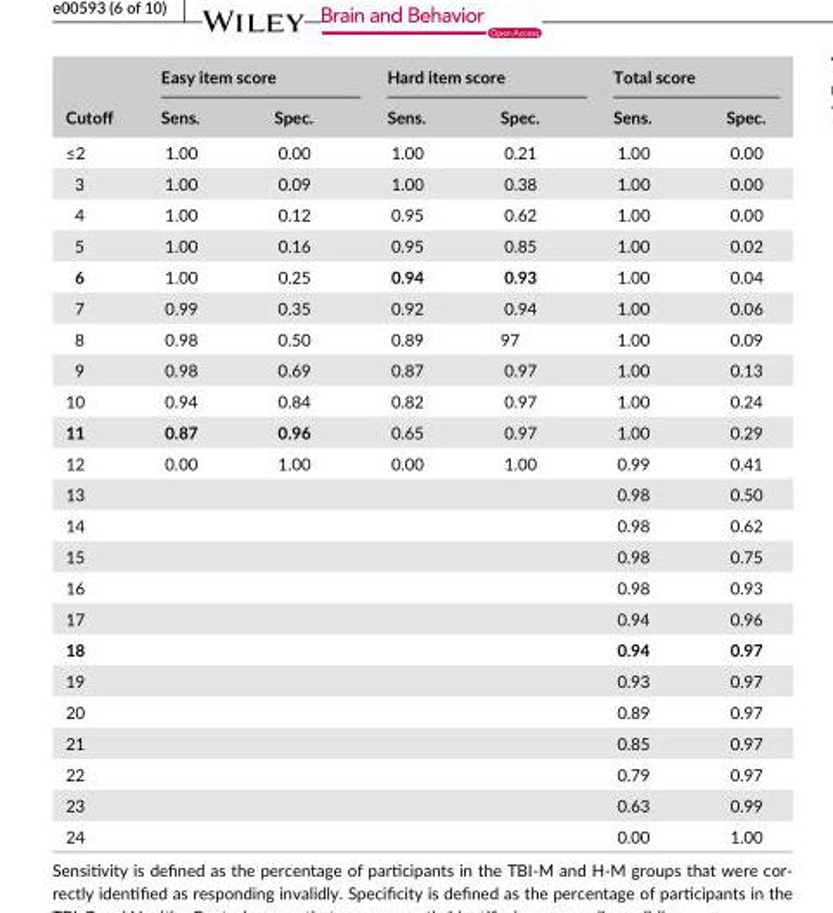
<table><thead><tr><td rowspan="2">Cutoff</td><td colspan="2">Easy item score</td><td colspan="2">Hard item score</td><td colspan="2">Total score</td></tr><tr><td>Sens.</td><td>Spec.</td><td>Sens.</td><td>Spec.</td><td>Sens.</td><td>Spec.</td></tr></thead><tbody><tr><td>≤2</td><td>1.00</td><td>0.00</td><td>1.00</td><td>0.21</td><td>1.00</td><td>0.00</td></tr><tr><td>3</td><td>1.00</td><td>0.09</td><td>1.00</td><td>0.38</td><td>1.00</td><td>0.00</td></tr><tr><td>4</td><td>1.00</td><td>0.12</td><td>0.95</td><td>0.62</td><td>1.00</td><td>0.00</td></tr><tr><td>5</td><td>1.00</td><td>0.16</td><td>0.95</td><td>0.85</td><td>1.00</td><td>0.02</td></tr><tr><td>6</td><td>1.00</td><td>0.25</td><td>0.94</td><td>0.93</td><td>1.00</td><td>0.04</td></tr><tr><td>7</td><td>0.99</td><td>0.35</td><td>0.92</td><td>0.94</td><td>1.00</td><td>0.06</td></tr><tr><td>8</td><td>0.98</td><td>0.50</td><td>0.89</td><td>97</td><td>1.00</td><td>0.09</td></tr><tr><td>9</td><td>0.98</td><td>0.69</td><td>0.87</td><td>0.97</td><td>1.00</td><td>0.13</td></tr><tr><td>10</td><td>0.94</td><td>0.84</td><td>0.82</td><td>0.97</td><td>1.00</td><td>0.24</td></tr><tr><td>11</td><td>0.87</td><td>0.96</td><td>0.65</td><td>0.97</td><td>1.00</td><td>0.29</td></tr><tr><td>12</td><td>0.00</td><td>1.00</td><td>0.00</td><td>1.00</td><td>0.99</td><td>0.41</td></tr><tr><td>13</td><td></td><td></td><td></td><td></td><td>0.98</td><td>0.50</td></tr><tr><td>14</td><td></td><td></td><td></td><td></td><td>0.98</td><td>0.62</td></tr><tr><td>15</td><td></td><td></td><td></td><td></td><td>0.98</td><td>0.75</td></tr><tr><td>16</td><td></td><td></td><td></td><td></td><td>0.98</td><td>0.93</td></tr><tr><td>17</td><td></td><td></td><td></td><td></td><td>0.94</td><td>0.96</td></tr><tr><td>18</td><td></td><td></td><td></td><td></td><td>0.94</td><td>0.97</td></tr><tr><td>19</td><td></td><td></td><td></td><td></td><td>0.93</td><td>0.97</td></tr><tr><td>20</td><td></td><td></td><td></td><td></td><td>0.89</td><td>0.97</td></tr><tr><td>21</td><td></td><td></td><td></td><td></td><td>0.85</td><td>0.97</td></tr><tr><td>22</td><td></td><td></td><td></td><td></td><td>0.79</td><td>0.97</td></tr><tr><td>23</td><td></td><td></td><td></td><td></td><td>0.63</td><td>0.99</td></tr><tr><td>24</td><td></td><td></td><td></td><td></td><td>0.00</td><td>1.00</td></tr></tbody></table>